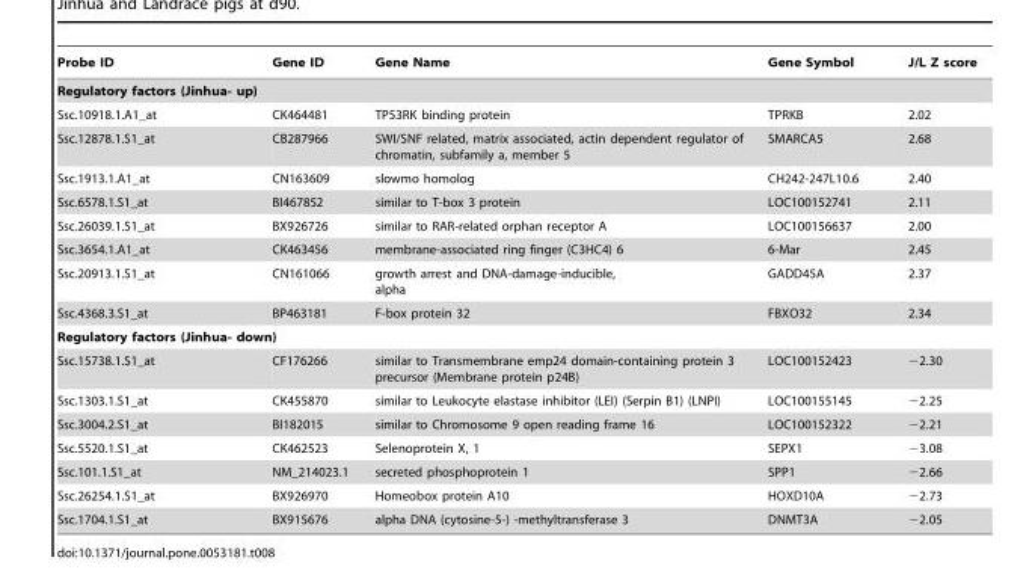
<table><thead><tr><td>Probe ID</td><td>Gene ID</td><td>Gene Name</td><td>Gene Symbol</td><td>J/L Z score</td></tr></thead><tbody><tr><td colspan="5">Regulatory factors (Jinhua- up)</td></tr><tr><td>Ssc.10918.1.A1_at</td><td>CK464481</td><td>TP53RK binding protein</td><td>TPRKB</td><td>2.02</td></tr><tr><td>Ssc.12878.1.S1_at</td><td>CB287966</td><td>SWI/SNF related, matrix associated, actin dependent regulator of chromatin, subfamily a, member 5</td><td>SMARCA5</td><td>2.68</td></tr><tr><td>Ssc.1913.1.A1_at</td><td>CN163609</td><td>slowmo homolog</td><td>CH242-247L10.6</td><td>2.40</td></tr><tr><td>Ssc.6578.1.S1_at</td><td>BI467852</td><td>similar to T-box 3 protein</td><td>LOC100152741</td><td>2.11</td></tr><tr><td>Ssc.26039.1.S1_at</td><td>BX926726</td><td>similar to RAR-related orphan receptor A</td><td>LOC100156637</td><td>2.00</td></tr><tr><td>Ssc.3654.1.A1_at</td><td>CK463456</td><td>membrane-associated ring finger (C3HC4) 6</td><td>6-Mar</td><td>2.45</td></tr><tr><td>Ssc.20913.1.S1_at</td><td>CN161066</td><td>growth arrest and DNA-damage-inducible, alpha</td><td>GADD45A</td><td>2.37</td></tr><tr><td>Ssc.4368.3.S1_at</td><td>BP463181</td><td>F-box protein 32</td><td>FBXO32</td><td>2.34</td></tr><tr><td colspan="5">Regulatory factors (Jinhua- down)</td></tr><tr><td>Ssc.15738.1.S1_at</td><td>CF176266</td><td>similar to Transmembrane emp24 domain-containing protein 3 precursor (Membrane protein p24B)</td><td>LOC100152423</td><td>−2.30</td></tr><tr><td>Ssc.1303.1.S1_at</td><td>CK455870</td><td>similar to Leukocyte elastase inhibitor (LEI) (Serpin B1) (LNPI)</td><td>LOC100155145</td><td>−2.25</td></tr><tr><td>Ssc.3004.2.S1_at</td><td>BI182015</td><td>similar to Chromosome 9 open reading frame 16</td><td>LOC100152322</td><td>−2.21</td></tr><tr><td>Ssc.5520.1.S1_at</td><td>CK462523</td><td>Selenoprotein X, 1</td><td>SEPX1</td><td>−3.08</td></tr><tr><td>Ssc.101.1.S1_at</td><td>NM_214023.1</td><td>secreted phosphoprotein 1</td><td>SPP1</td><td>−2.66</td></tr><tr><td>Ssc.26254.1.S1_at</td><td>BX926970</td><td>Homeobox protein A10</td><td>HOXD10A</td><td>−2.73</td></tr><tr><td>Ssc.1704.1.S1_at</td><td>BX915676</td><td>alpha DNA (cytosine-5-) -methyltransferase 3</td><td>DNMT3A</td><td>−2.05</td></tr></tbody></table>